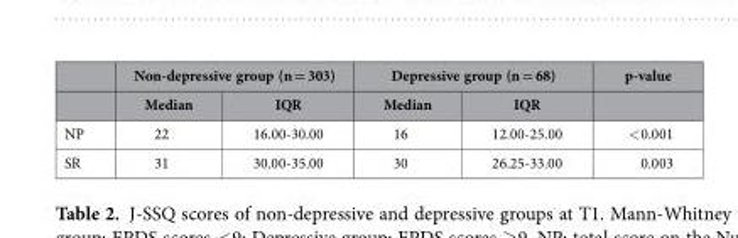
<table><thead><tr><td rowspan="2"></td><td colspan="2">Non-depressive group (n = 303)</td><td colspan="2">Depressive group (n = 68)</td><td rowspan="2">p-value</td></tr><tr><td>Median</td><td>IQR</td><td>Median</td><td>IQR</td></tr></thead><tbody><tr><td>NP</td><td>22</td><td>16.00-30.00</td><td>16</td><td>12.00-25.00</td><td>&lt; 0.001</td></tr><tr><td>SR</td><td>31</td><td>30.00-35.00</td><td>30</td><td>26.25-33.00</td><td>0.003</td></tr></tbody></table>